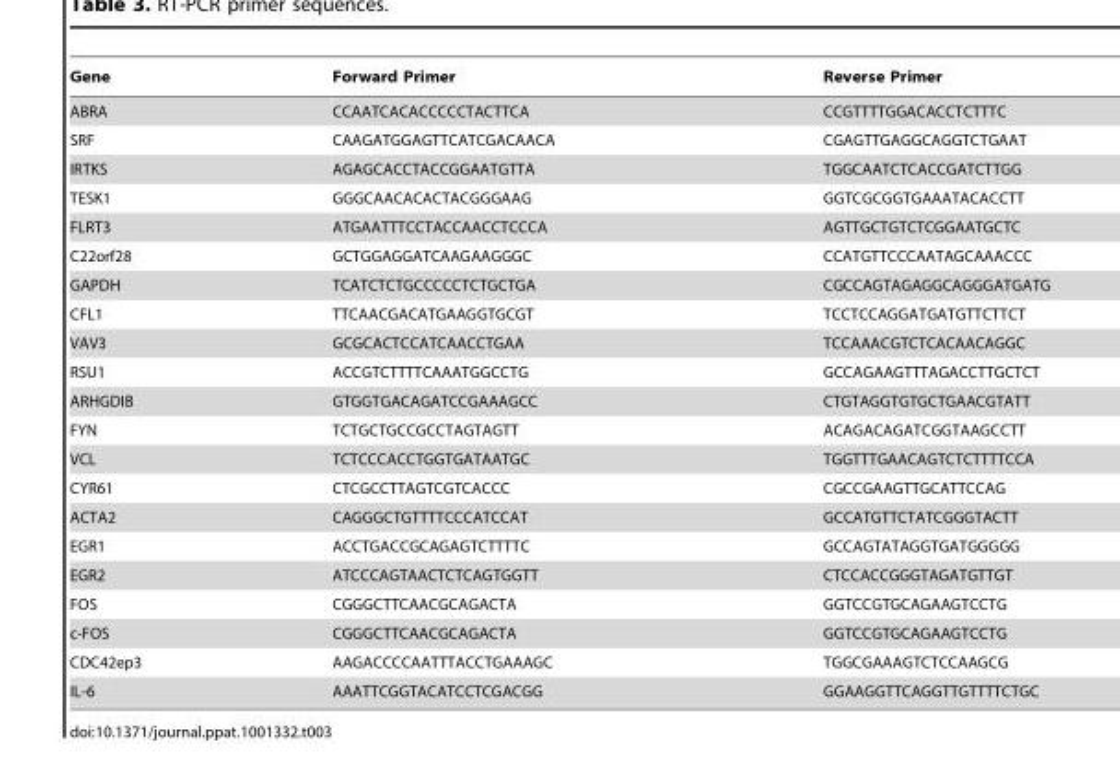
<table><thead><tr><td>Gene</td><td>Forward Primer</td><td>Reverse Primer</td></tr></thead><tbody><tr><td>ABRA</td><td>CCAATCACACCCCCTACTTCA</td><td>CCGTTTTGGACACCTCTTTC</td></tr><tr><td>SRF</td><td>CAAGATGGAGTTCATCGACAACA</td><td>CGAGTTGAGGCAGGTCTGAAT</td></tr><tr><td>IRTKS</td><td>AGAGCACCTACCGGAATGTTA</td><td>TGGCAATCTCACCGATCTTGG</td></tr><tr><td>TESK1</td><td>GGGCAACACACTACGGGAAG</td><td>GGTCGCGGTGAAATACACCTT</td></tr><tr><td>FLRT3</td><td>ATGAATTTCCTACCAACCTCCCA</td><td>AGTTGCTGTCTCGGAATGCTC</td></tr><tr><td>C22orf28</td><td>GCTGGAGGATCAAGAAGGGC</td><td>CCATGTTCCCAATAGCAAACCC</td></tr><tr><td>GAPDH</td><td>TCATCTCTGCCCCCTCTGCTGA</td><td>CGCCAGTAGAGGCAGGGATGATG</td></tr><tr><td>CFL1</td><td>TTCAACGACATGAAGGTGCGT</td><td>TCCTCCAGGATGATGTTCTTCT</td></tr><tr><td>VAV3</td><td>GCGCACTCCATCAACCTGAA</td><td>TCCAAACGTCTCACAACAGGC</td></tr><tr><td>RSU1</td><td>ACCGTCTTTTCAAATGGCCTG</td><td>GCCAGAAGTTTAGACCTTGCTCT</td></tr><tr><td>ARHGDIB</td><td>GTGGTGACAGATCCGAAAGCC</td><td>CTGTAGGTGTGCTGAACGTATT</td></tr><tr><td>FYN</td><td>TCTGCTGCCGCCTAGTAGTT</td><td>ACAGACAGATCGGTAAGCCTT</td></tr><tr><td>VCL</td><td>TCTCCCACCTGGTGATAATGC</td><td>TGGTTTGAACAGTCTCTTTTCCA</td></tr><tr><td>CYR61</td><td>CTCGCCTTAGTCGTCACCC</td><td>CGCCGAAGTTGCATTCCAG</td></tr><tr><td>ACTA2</td><td>CAGGGCTGTTTTCCCATCCAT</td><td>GCCATGTTCTATCGGGTACTT</td></tr><tr><td>EGR1</td><td>ACCTGACCGCAGAGTCTTTTC</td><td>GCCAGTATAGGTGATGGGGG</td></tr><tr><td>EGR2</td><td>ATCCCAGTAACTCTCAGTGGTT</td><td>CTCCACCGGGTAGATGTTGT</td></tr><tr><td>FOS</td><td>CGGGCTTCAACGCAGACTA</td><td>GGTCCGTGCAGAAGTCCTG</td></tr><tr><td>c-FOS</td><td>CGGGCTTCAACGCAGACTA</td><td>GGTCCGTGCAGAAGTCCTG</td></tr><tr><td>CDC42ep3</td><td>AAGACCCCAATTTACCTGAAAGC</td><td>TGGCGAAAGTCTCCAAGCG</td></tr><tr><td>IL-6</td><td>AAATTCGGTACATCCTCGACGG</td><td>GGAAGGTTCAGGTTGTTTTCTGC</td></tr></tbody></table>